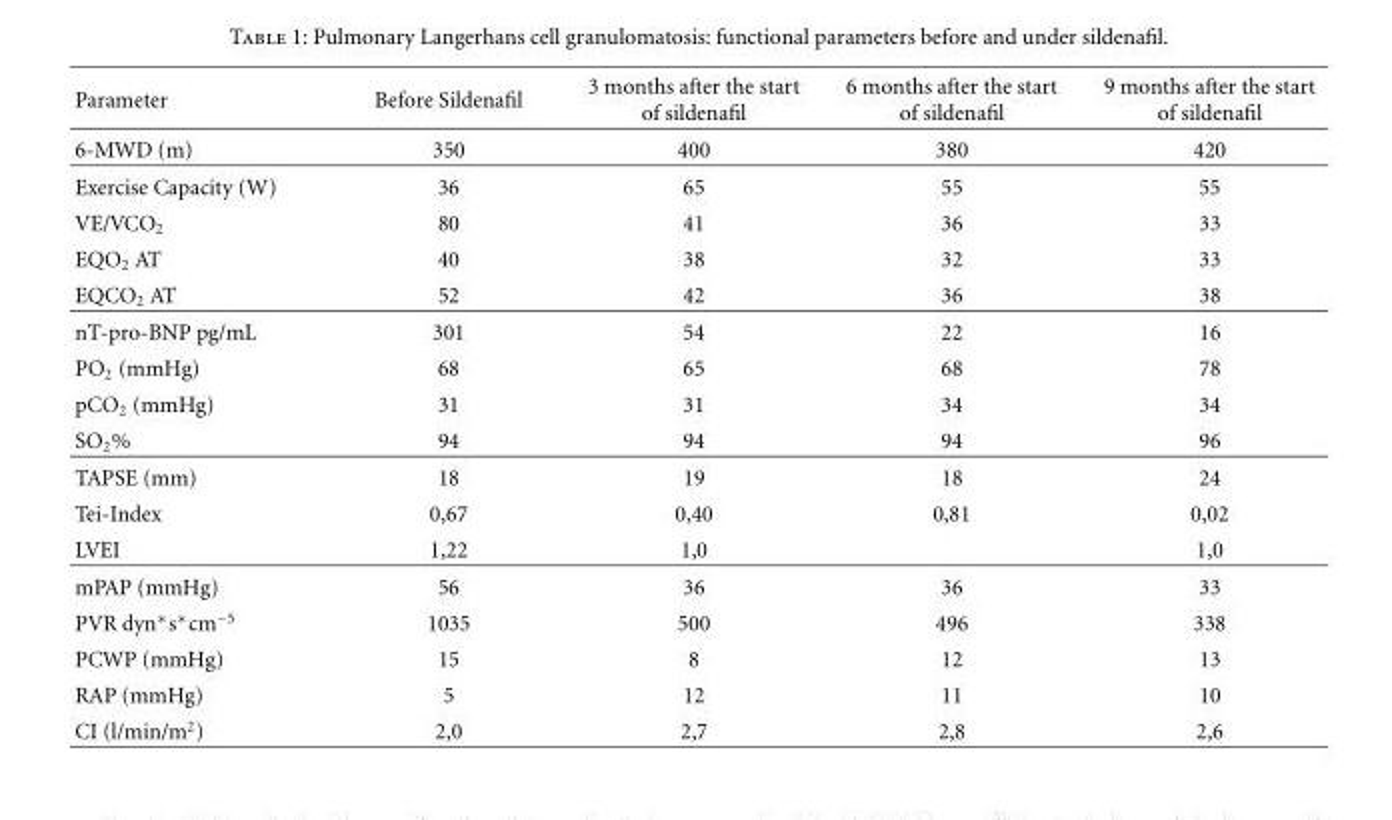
<table><thead><tr><td>Parameter</td><td>Before Sildenafil</td><td>3 months after the start of sildenafil</td><td>6 months after the start of sildenafil</td><td>9 months after the start of sildenafil</td></tr></thead><tbody><tr><td>6-MWD (m)</td><td>350</td><td>400</td><td>380</td><td>420</td></tr><tr><td>Exercise Capacity (W)</td><td>36</td><td>65</td><td>55</td><td>55</td></tr><tr><td>VE/VCO<sub>2</sub></td><td>80</td><td>41</td><td>36</td><td>33</td></tr><tr><td>EQO<sub>2</sub> AT</td><td>40</td><td>38</td><td>32</td><td>33</td></tr><tr><td>EQCO<sub>2</sub> AT</td><td>52</td><td>42</td><td>36</td><td>38</td></tr><tr><td>nT-pro-BNP pg/mL</td><td>301</td><td>54</td><td>22</td><td>16</td></tr><tr><td>PO<sub>2</sub> (mmHg)</td><td>68</td><td>65</td><td>68</td><td>78</td></tr><tr><td>pCO<sub>2</sub> (mmHg)</td><td>31</td><td>31</td><td>34</td><td>34</td></tr><tr><td>SO<sub>2</sub>%</td><td>94</td><td>94</td><td>94</td><td>96</td></tr><tr><td>TAPSE (mm)</td><td>18</td><td>19</td><td>18</td><td>24</td></tr><tr><td>Tei-Index</td><td>0,67</td><td>0,40</td><td>0,81</td><td>0,02</td></tr><tr><td>LVEI</td><td>1,22</td><td>1,0</td><td></td><td>1,0</td></tr><tr><td>mPAP (mmHg)</td><td>56</td><td>36</td><td>36</td><td>33</td></tr><tr><td>PVR dyn∗s∗cm−5</td><td>1035</td><td>500</td><td>496</td><td>338</td></tr><tr><td>PCWP (mmHg)</td><td>15</td><td>8</td><td>12</td><td>13</td></tr><tr><td>RAP (mmHg)</td><td>5</td><td>12</td><td>11</td><td>10</td></tr><tr><td>CI (l/min/m<sup>2</sup>)</td><td>2,0</td><td>2,7</td><td>2,8</td><td>2,6</td></tr></tbody></table>